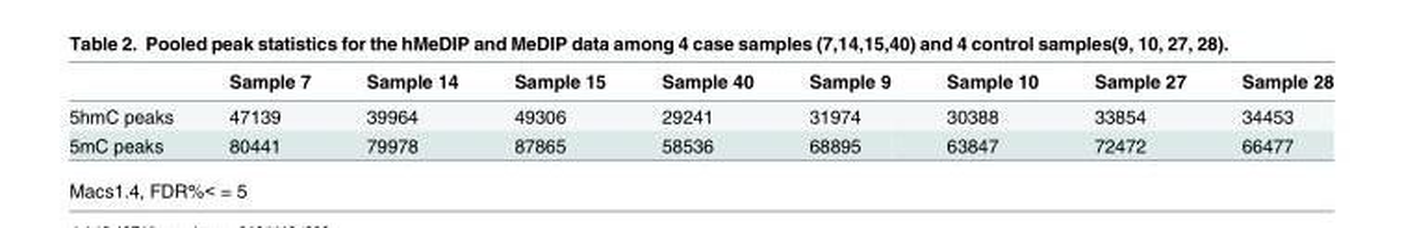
<table><thead><tr><td></td><td>Sample 7</td><td>Sample 14</td><td>Sample 15</td><td>Sample 40</td><td>Sample 9</td><td>Sample 10</td><td>Sample 27</td><td>Sample 28</td></tr></thead><tbody><tr><td>5hmC peaks</td><td>47139</td><td>39964</td><td>49306</td><td>29241</td><td>31974</td><td>30388</td><td>33854</td><td>34453</td></tr><tr><td>5mC peaks</td><td>80441</td><td>79978</td><td>87865</td><td>58536</td><td>68895</td><td>63847</td><td>72472</td><td>66477</td></tr></tbody></table>